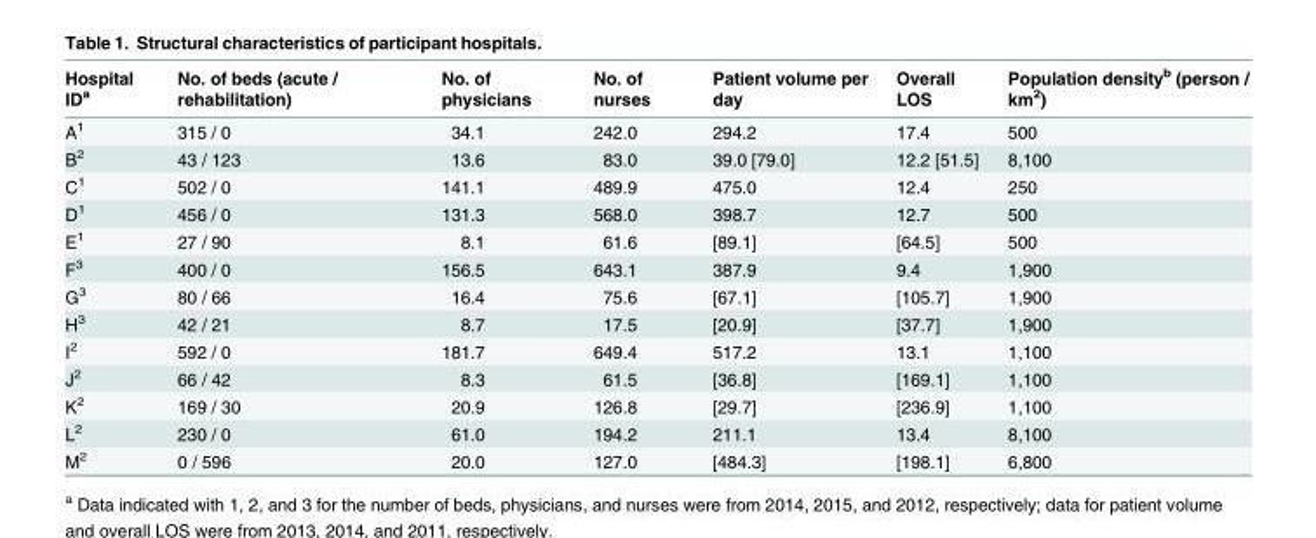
<table><thead><tr><td>Hospital ID<sup>a</sup></td><td>No. of beds (acute / rehabilitation)</td><td>No. of physicians</td><td>No. of nurses</td><td>Patient volume per day</td><td>Overall LOS</td><td>Population density<sup>b</sup> (person / km<sup>2</sup>)</td></tr></thead><tbody><tr><td>A<sup>1</sup></td><td>315 / 0</td><td>34.1</td><td>242.0</td><td>294.2</td><td>17.4</td><td>500</td></tr><tr><td>B<sup>2</sup></td><td>43 / 123</td><td>13.6</td><td>83.0</td><td>39.0 [79.0]</td><td>12.2 [51.5]</td><td>8,100</td></tr><tr><td>C<sup>1</sup></td><td>502 / 0</td><td>141.1</td><td>489.9</td><td>475.0</td><td>12.4</td><td>250</td></tr><tr><td>D<sup>1</sup></td><td>456 / 0</td><td>131.3</td><td>568.0</td><td>398.7</td><td>12.7</td><td>500</td></tr><tr><td>E<sup>1</sup></td><td>27 / 90</td><td>8.1</td><td>61.6</td><td>[89.1]</td><td>[64.5]</td><td>500</td></tr><tr><td>F<sup>3</sup></td><td>400 / 0</td><td>156.5</td><td>643.1</td><td>387.9</td><td>9.4</td><td>1,900</td></tr><tr><td>G<sup>3</sup></td><td>80 / 66</td><td>16.4</td><td>75.6</td><td>[67.1]</td><td>[105.7]</td><td>1,900</td></tr><tr><td>H<sup>3</sup></td><td>42 / 21</td><td>8.7</td><td>17.5</td><td>[20.9]</td><td>[37.7]</td><td>1,900</td></tr><tr><td>I<sup>2</sup></td><td>592 / 0</td><td>181.7</td><td>649.4</td><td>517.2</td><td>13.1</td><td>1,100</td></tr><tr><td>J<sup>2</sup></td><td>66 / 42</td><td>8.3</td><td>61.5</td><td>[36.8]</td><td>[169.1]</td><td>1,100</td></tr><tr><td>K<sup>2</sup></td><td>169 / 30</td><td>20.9</td><td>126.8</td><td>[29.7]</td><td>[236.9]</td><td>1,100</td></tr><tr><td>L<sup>2</sup></td><td>230 / 0</td><td>61.0</td><td>194.2</td><td>211.1</td><td>13.4</td><td>8,100</td></tr><tr><td>M<sup>2</sup></td><td>0 / 596</td><td>20.0</td><td>127.0</td><td>[484.3]</td><td>[198.1]</td><td>6,800</td></tr></tbody></table>